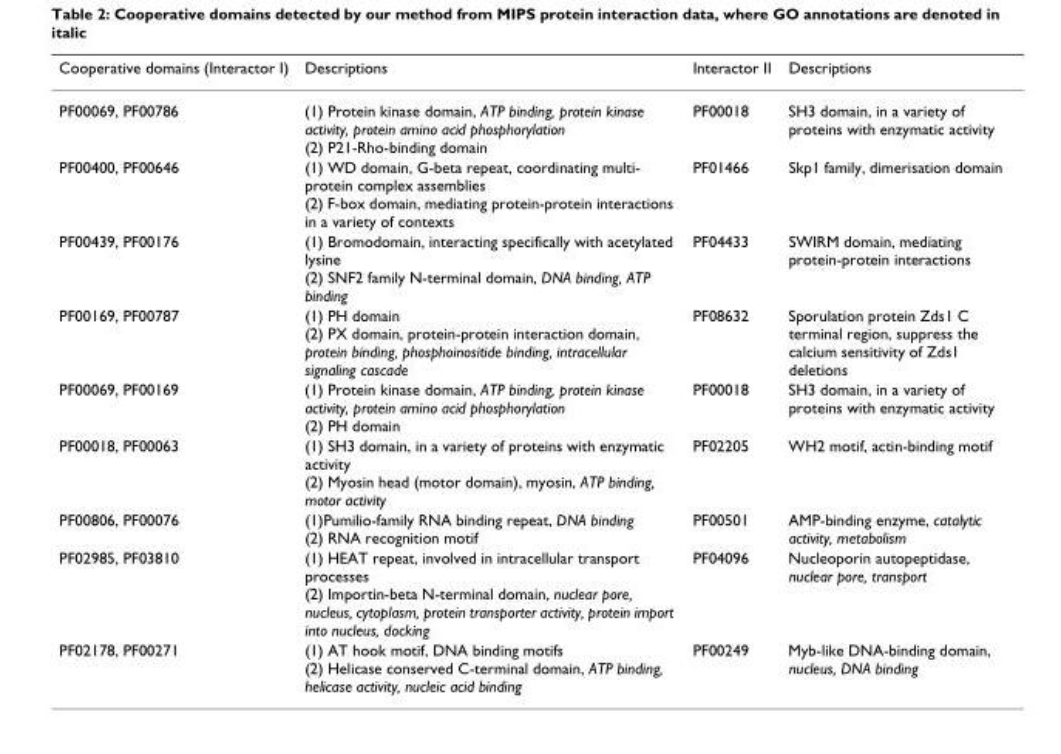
<table><thead><tr><td>Cooperative domains (Interactor I)</td><td>Descriptions</td><td>Interactor II</td><td>Descriptions</td></tr></thead><tbody><tr><td>PF00069, PF00786</td><td>(1) Protein kinase domain, ATP binding, protein kinase activity, protein amino acid phosphorylation (2) P21-Rho-binding domain</td><td>PF00018</td><td>SH3 domain, in a variety of proteins with enzymatic activity</td></tr><tr><td>PF00400, PF00646</td><td>(1) WD domain, G-beta repeat, coordinating multi- protein complex assemblies (2) F-box domain, mediating protein-protein interactions in a variety of contexts</td><td>PF01466</td><td>Skp1 family, dimerisation domain</td></tr><tr><td>PF00439, PF00176</td><td>(1) Bromodomain, interacting specifically with acetylated lysine (2) SNF2 family N-terminal domain, DNA binding, ATP binding</td><td>PF04433</td><td>SWIRM domain, mediating protein-protein interactions</td></tr><tr><td>PF00169, PF00787</td><td>(1) PH domain (2) PX domain, protein-protein interaction domain, protein binding, phosphoinositide binding, intracellular signaling cascade</td><td>PF08632</td><td>Sporulation protein Zds1 C terminal region, suppress the calcium sensitivity of Zds1 deletions</td></tr><tr><td>PF00069, PF00169</td><td>(1) Protein kinase domain, ATP binding, protein kinase activity, protein amino acid phosphorylation (2) PH domain</td><td>PF00018</td><td>SH3 domain, in a variety of proteins with enzymatic activity</td></tr><tr><td>PF00018, PF00063</td><td>(1) SH3 domain, in a variety of proteins with enzymatic activity (2) Myosin head (motor domain), myosin, ATP binding, motor activity</td><td>PF02205</td><td>WH2 motif, actin-binding motif</td></tr><tr><td>PF00806, PF00076</td><td>(1)Pumilio-family RNA binding repeat, DNA binding (2) RNA recognition motif</td><td>PF00501</td><td>AMP-binding enzyme, catalytic activity, metabolism</td></tr><tr><td>PF02985, PF03810</td><td>(1) HEAT repeat, involved in intracellular transport processes (2) Importin-beta N-terminal domain, nuclear pore, nucleus, cytoplasm, protein transporter activity, protein import into nucleus, docking</td><td>PF04096</td><td>Nucleoporin autopeptidase, nuclear pore, transport</td></tr><tr><td>PF02178, PF00271</td><td>(1) AT hook motif, DNA binding motifs (2) Helicase conserved C-terminal domain, ATP binding, helicase activity, nucleic acid binding</td><td>PF00249</td><td>Myb-like DNA-binding domain, nucleus, DNA binding</td></tr></tbody></table>